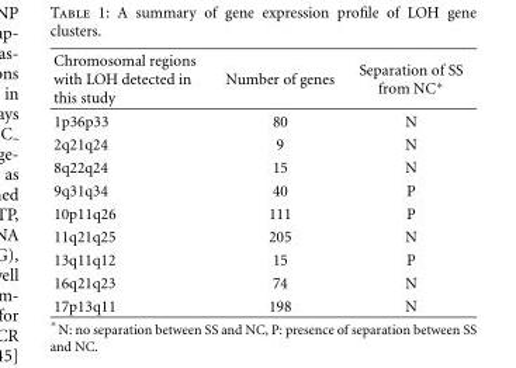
<table><thead><tr><td>Chromosomal regions with LOH detected in this study</td><td>Number of genes</td><td>Separation of SS from NC∗</td></tr></thead><tbody><tr><td>1p36p33</td><td>80</td><td>N</td></tr><tr><td>2q21q24</td><td>9</td><td>N</td></tr><tr><td>8q22q24</td><td>15</td><td>N</td></tr><tr><td>9q31q34</td><td>40</td><td>P</td></tr><tr><td>10p11q26</td><td>111</td><td>P</td></tr><tr><td>11q21q25</td><td>205</td><td>N</td></tr><tr><td>13q11q12</td><td>15</td><td>P</td></tr><tr><td>16q21q23</td><td>74</td><td>N</td></tr><tr><td>17p13q11</td><td>198</td><td>N</td></tr></tbody></table>